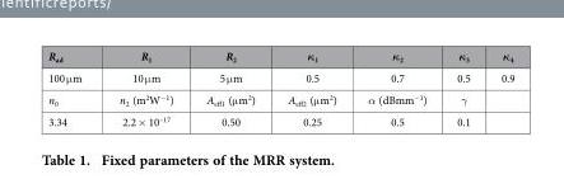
<table><thead><tr><td>R<sub>ad</sub></td><td>R<sub>1</sub></td><td>R<sub>2</sub></td><td>κ<sub>1</sub></td><td>κ<sub>2</sub></td><td>κ<sub>3</sub></td><td>κ<sub>4</sub></td></tr></thead><tbody><tr><td>100 μ m</td><td>10 μ m</td><td>5 μ m</td><td>0.5</td><td>0.7</td><td>0.5</td><td>0.9</td></tr><tr><td>n<sub>0</sub></td><td>n<sub>2</sub> (m<sup>2</sup>W<sup>−1</sup>)</td><td>A<sub>eff1</sub> (μ m<sup>2</sup>)</td><td>A<sub>eff2</sub> (μ m<sup>2</sup>)</td><td>α (dBmm<sup>−1</sup>)</td><td>γ</td><td></td></tr><tr><td>3.34</td><td>2.2 × 10<sup>–17</sup></td><td>0.50</td><td>0.25</td><td>0.5</td><td>0.1</td><td></td></tr></tbody></table>